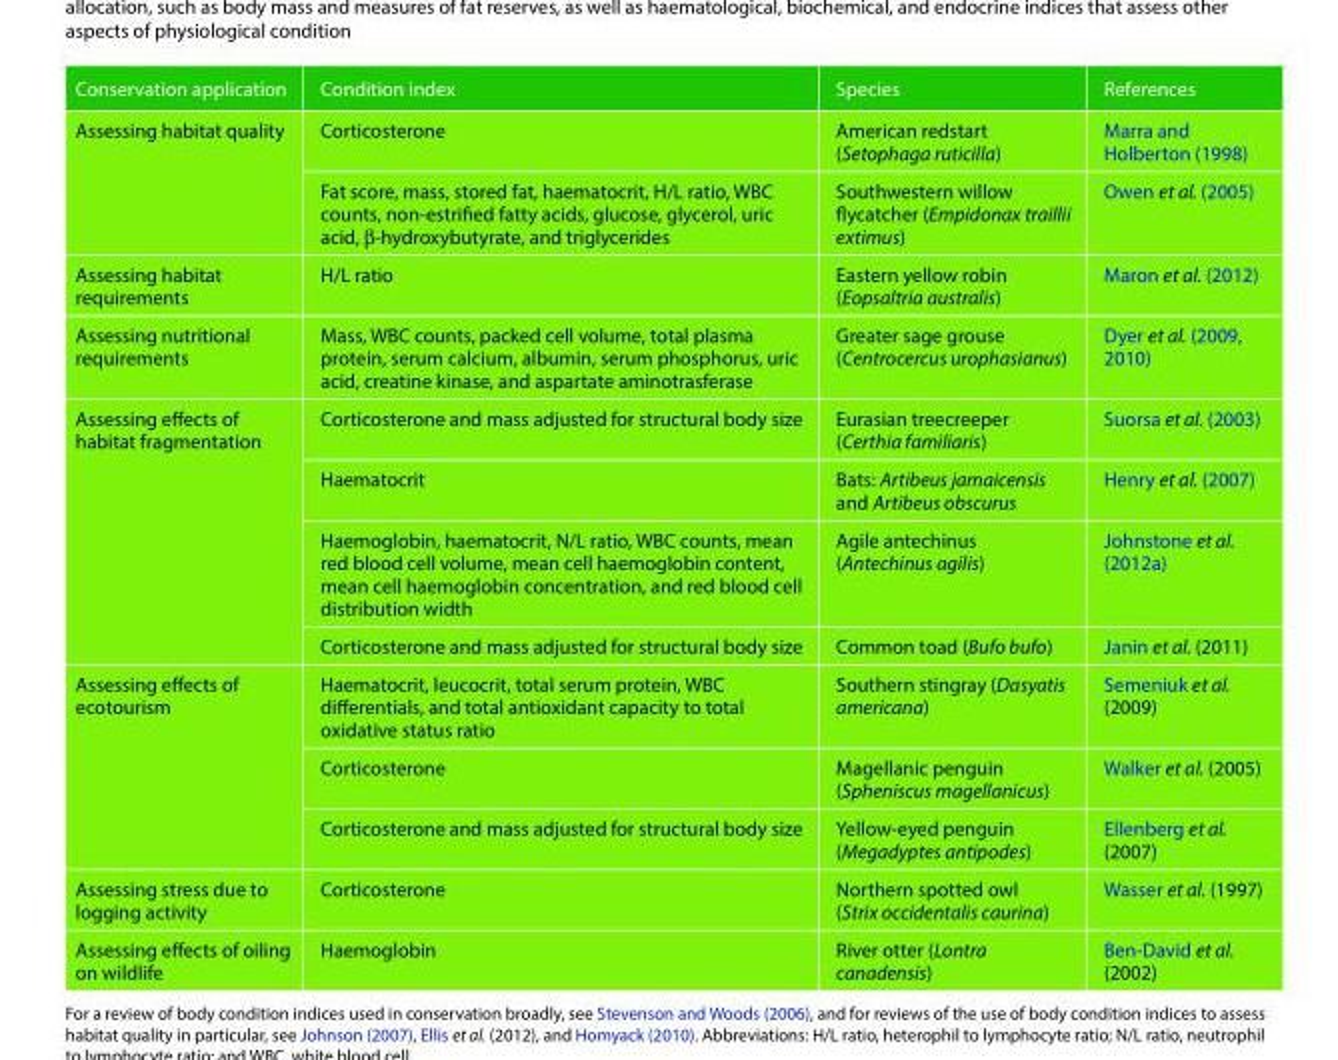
<table><thead><tr><td>Conservation application</td><td>Condition index</td><td>Species</td><td>References</td></tr></thead><tbody><tr><td rowspan="2">Assessing habitat quality</td><td>Corticosterone</td><td>American redstart (Setophaga ruticilla)</td><td>Marra and Holberton (1998)</td></tr><tr><td>Fat score, mass, stored fat, haematocrit, H/L ratio, WBC counts, non-estrified fatty acids, glucose, glycerol, uric acid, β-hydroxybutyrate, and triglycerides</td><td>Southwestern willow flycatcher (Empidonax traillii extimus)</td><td>Owen et al. (2005)</td></tr><tr><td>Assessing habitat requirements</td><td>H/L ratio</td><td>Eastern yellow robin (Eopsaltria australis)</td><td>Maron et al. (2012)</td></tr><tr><td>Assessing nutritional requirements</td><td>Mass, WBC counts, packed cell volume, total plasma protein, serum calcium, albumin, serum phosphorus, uric acid, creatine kinase, and aspartate aminotrasferase</td><td>Greater sage grouse (Centrocercus urophasianus)</td><td>Dyer et al. (2009, 2010)</td></tr><tr><td rowspan="4">Assessing effects of habitat fragmentation</td><td>Corticosterone and mass adjusted for structural body size</td><td>Eurasian treecreeper (Certhia familiaris)</td><td>Suorsa et al. (2003)</td></tr><tr><td>Haematocrit</td><td>Bats: Artibeus jamaicensis and Artibeus obscurus</td><td>Henry et al. (2007)</td></tr><tr><td>Haemoglobin, haematocrit, N/L ratio, WBC counts, mean red blood cell volume, mean cell haemoglobin content, mean cell haemoglobin concentration, and red blood cell distribution width</td><td>Agile antechinus (Antechinus agilis)</td><td>Johnstone et al. (2012a)</td></tr><tr><td>Corticosterone and mass adjusted for structural body size</td><td>Common toad (Bufo bufo)</td><td>Janin et al. (2011)</td></tr><tr><td rowspan="3">Assessing effects of ecotourism</td><td>Haematocrit, leucocrit, total serum protein, WBC differentials, and total antioxidant capacity to total oxidative status ratio</td><td>Southern stingray (Dasyatis americana)</td><td>Semeniuk et al. (2009)</td></tr><tr><td>Corticosterone</td><td>Magellanic penguin (Spheniscus magellanicus)</td><td>Walker et al. (2005)</td></tr><tr><td>Corticosterone and mass adjusted for structural body size</td><td>Yellow-eyed penguin (Megadyptes antipodes)</td><td>Ellenberg et al. (2007)</td></tr><tr><td>Assessing stress due to logging activity</td><td>Corticosterone</td><td>Northern spotted owl (Strix occidentalis caurina)</td><td>Wasser et al. (1997)</td></tr><tr><td>Assessing effects of oiling on wildlife</td><td>Haemoglobin</td><td>River otter (Lontra canadensis)</td><td>Ben-David et al. (2002)</td></tr></tbody></table>